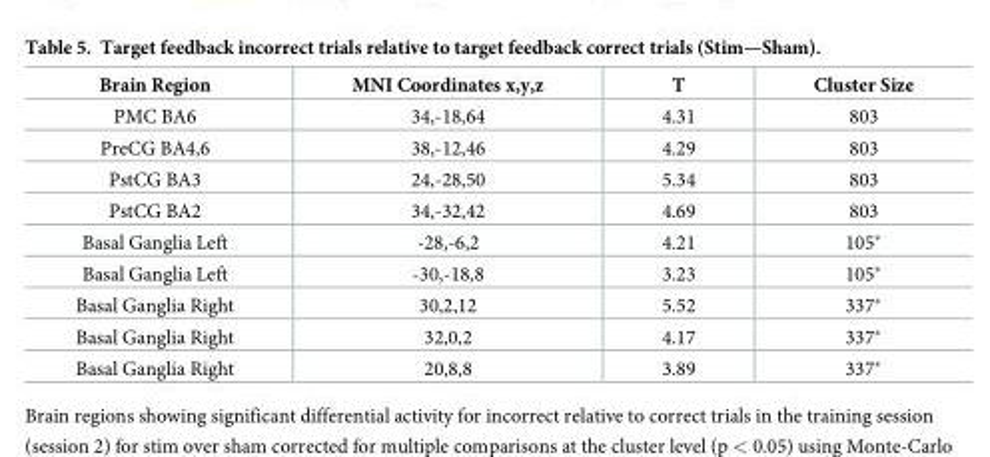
<table><thead><tr><td>Brain Region</td><td>MNI Coordinates x,y,z</td><td>T</td><td>Cluster Size</td></tr></thead><tbody><tr><td>PMC BA6</td><td>34,-18,64</td><td>4.31</td><td>803</td></tr><tr><td>PreCG BA4,6</td><td>38,-12,46</td><td>4.29</td><td>803</td></tr><tr><td>PstCG BA3</td><td>24,-28,50</td><td>5.34</td><td>803</td></tr><tr><td>PstCG BA2</td><td>34,-32,42</td><td>4.69</td><td>803</td></tr><tr><td>Basal Ganglia Left</td><td>-28,-6,2</td><td>4.21</td><td>105*</td></tr><tr><td>Basal Ganglia Left</td><td>-30,-18,8</td><td>3.23</td><td>105*</td></tr><tr><td>Basal Ganglia Right</td><td>30,2,12</td><td>5.52</td><td>337*</td></tr><tr><td>Basal Ganglia Right</td><td>32,0,2</td><td>4.17</td><td>337*</td></tr><tr><td>Basal Ganglia Right</td><td>20,8,8</td><td>3.89</td><td>337*</td></tr></tbody></table>